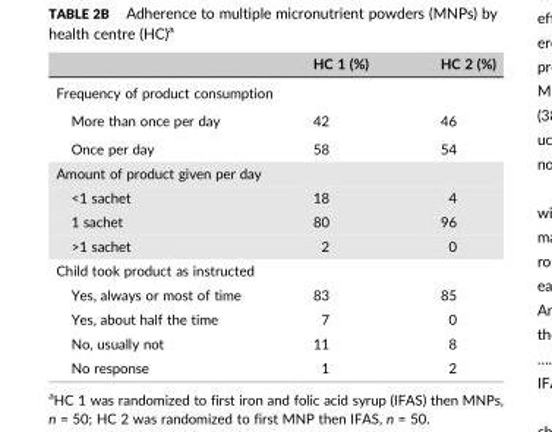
<table><thead><tr><td></td><td>HC 1 (%)</td><td>HC 2 (%)</td></tr></thead><tbody><tr><td colspan="3">Frequency of product consumption</td></tr><tr><td>More than once per day</td><td>42</td><td>46</td></tr><tr><td>Once per day</td><td>58</td><td>54</td></tr><tr><td colspan="3">Amount of product given per day</td></tr><tr><td>&lt;1 sachet</td><td>18</td><td>4</td></tr><tr><td>1 sachet</td><td>80</td><td>96</td></tr><tr><td>&gt;1 sachet</td><td>2</td><td>0</td></tr><tr><td colspan="3">Child took product as instructed</td></tr><tr><td>Yes, always or most of time</td><td>83</td><td>85</td></tr><tr><td>Yes, about half the time</td><td>7</td><td>0</td></tr><tr><td>No, usually not</td><td>11</td><td>8</td></tr><tr><td>No response</td><td>1</td><td>2</td></tr></tbody></table>